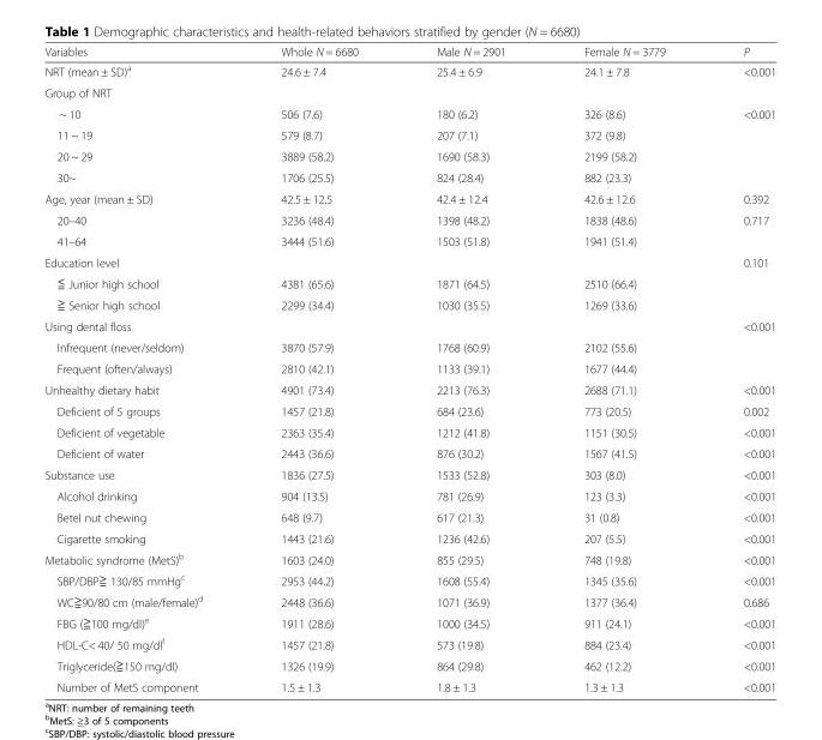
<table><thead><tr><td>Variables</td><td>Whole N = 6680</td><td>Male N = 2901</td><td>Female N = 3779</td><td>P</td></tr></thead><tbody><tr><td>NRT (mean ± SD)<sup>a</sup></td><td>24.6 ± 7.4</td><td>25.4 ± 6.9</td><td>24.1 ± 7.8</td><td>&lt;0.001</td></tr><tr><td colspan="5">Group of NRT</td></tr><tr><td>~ 10</td><td>506 (7.6)</td><td>180 (6.2)</td><td>326 (8.6)</td><td>&lt;0.001</td></tr><tr><td>11 ~ 19</td><td>579 (8.7)</td><td>207 (7.1)</td><td>372 (9.8)</td><td></td></tr><tr><td>20 ~ 29</td><td>3889 (58.2)</td><td>1690 (58.3)</td><td>2199 (58.2)</td><td></td></tr><tr><td>30~</td><td>1706 (25.5)</td><td>824 (28.4)</td><td>882 (23.3)</td><td></td></tr><tr><td>Age, year (mean ± SD)</td><td>42.5 ± 12.5</td><td>42.4 ± 12.4</td><td>42.6 ± 12.6</td><td>0.392</td></tr><tr><td>20–40</td><td>3236 (48.4)</td><td>1398 (48.2)</td><td>1838 (48.6)</td><td>0.717</td></tr><tr><td>41–64</td><td>3444 (51.6)</td><td>1503 (51.8)</td><td>1941 (51.4)</td><td></td></tr><tr><td>Education level</td><td></td><td></td><td></td><td>0.101</td></tr><tr><td>≦ Junior high school</td><td>4381 (65.6)</td><td>1871 (64.5)</td><td>2510 (66.4)</td><td></td></tr><tr><td>≧ Senior high school</td><td>2299 (34.4)</td><td>1030 (35.5)</td><td>1269 (33.6)</td><td></td></tr><tr><td>Using dental floss</td><td></td><td></td><td></td><td>&lt;0.001</td></tr><tr><td>Infrequent (never/seldom)</td><td>3870 (57.9)</td><td>1768 (60.9)</td><td>2102 (55.6)</td><td></td></tr><tr><td>Frequent (often/always)</td><td>2810 (42.1)</td><td>1133 (39.1)</td><td>1677 (44.4)</td><td></td></tr><tr><td>Unhealthy dietary habit</td><td>4901 (73.4)</td><td>2213 (76.3)</td><td>2688 (71.1)</td><td>&lt;0.001</td></tr><tr><td>Deficient of 5 groups</td><td>1457 (21.8)</td><td>684 (23.6)</td><td>773 (20.5)</td><td>0.002</td></tr><tr><td>Deficient of vegetable</td><td>2363 (35.4)</td><td>1212 (41.8)</td><td>1151 (30.5)</td><td>&lt;0.001</td></tr><tr><td>Deficient of water</td><td>2443 (36.6)</td><td>876 (30.2)</td><td>1567 (41.5)</td><td>&lt;0.001</td></tr><tr><td>Substance use</td><td>1836 (27.5)</td><td>1533 (52.8)</td><td>303 (8.0)</td><td>&lt;0.001</td></tr><tr><td>Alcohol drinking</td><td>904 (13.5)</td><td>781 (26.9)</td><td>123 (3.3)</td><td>&lt;0.001</td></tr><tr><td>Betel nut chewing</td><td>648 (9.7)</td><td>617 (21.3)</td><td>31 (0.8)</td><td>&lt;0.001</td></tr><tr><td>Cigarette smoking</td><td>1443 (21.6)</td><td>1236 (42.6)</td><td>207 (5.5)</td><td>&lt;0.001</td></tr><tr><td>Metabolic syndrome (MetS)<sup>b</sup></td><td>1603 (24.0)</td><td>855 (29.5)</td><td>748 (19.8)</td><td>&lt;0.001</td></tr><tr><td>SBP/DBP≧ 130/85 mmHg<sup>c</sup></td><td>2953 (44.2)</td><td>1608 (55.4)</td><td>1345 (35.6)</td><td>&lt;0.001</td></tr><tr><td>WC≧90/80 cm (male/female)<sup>d</sup></td><td>2448 (36.6)</td><td>1071 (36.9)</td><td>1377 (36.4)</td><td>0.686</td></tr><tr><td>FBG (≧100 mg/dl)<sup>e</sup></td><td>1911 (28.6)</td><td>1000 (34.5)</td><td>911 (24.1)</td><td>&lt;0.001</td></tr><tr><td>HDL-C&lt; 40/ 50 mg/dl<sup>f</sup></td><td>1457 (21.8)</td><td>573 (19.8)</td><td>884 (23.4)</td><td>&lt;0.001</td></tr><tr><td>Triglyceride(≧150 mg/dl)</td><td>1326 (19.9)</td><td>864 (29.8)</td><td>462 (12.2)</td><td>&lt;0.001</td></tr><tr><td>Number of MetS component</td><td>1.5 ± 1.3</td><td>1.8 ± 1.3</td><td>1.3 ± 1.3</td><td>&lt;0.001</td></tr></tbody></table>